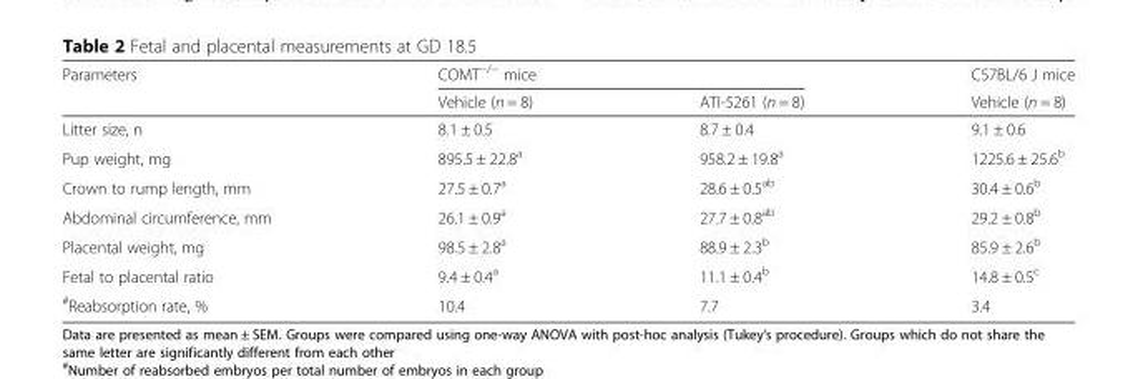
<table><thead><tr><td rowspan="2">Parameters</td><td colspan="2">COMT<sup>−/−</sup> mice</td><td rowspan="2">C57BL/6 J mice Vehicle (n = 8)</td></tr><tr><td>Vehicle (n = 8)</td><td>ATI-5261 (n = 8)</td></tr></thead><tbody><tr><td>Litter size, n</td><td>8.1 ± 0.5</td><td>8.7 ± 0.4</td><td>9.1 ± 0.6</td></tr><tr><td>Pup weight, mg</td><td>895.5 ± 22.8<sup>a</sup></td><td>958.2 ± 19.8<sup>a</sup></td><td>1225.6 ± 25.6<sup>b</sup></td></tr><tr><td>Crown to rump length, mm</td><td>27.5 ± 0.7<sup>a</sup></td><td>28.6 ± 0.5<sup>ab</sup></td><td>30.4 ± 0.6<sup>b</sup></td></tr><tr><td>Abdominal circumference, mm</td><td>26.1 ± 0.9<sup>a</sup></td><td>27.7 ± 0.8<sup>ab</sup></td><td>29.2 ± 0.8<sup>b</sup></td></tr><tr><td>Placental weight, mg</td><td>98.5 ± 2.8<sup>a</sup></td><td>88.9 ± 2.3<sup>b</sup></td><td>85.9 ± 2.6<sup>b</sup></td></tr><tr><td>Fetal to placental ratio</td><td>9.4 ± 0.4<sup>a</sup></td><td>11.1 ± 0.4<sup>b</sup></td><td>14.8 ± 0.5<sup>c</sup></td></tr><tr><td><sup>#</sup>Reabsorption rate, %</td><td>10.4</td><td>7.7</td><td>3.4</td></tr></tbody></table>